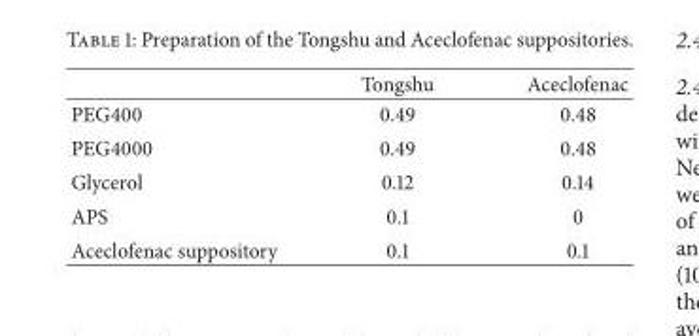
<table><thead><tr><td></td><td>Tongshu</td><td>Aceclofenac</td></tr></thead><tbody><tr><td>PEG400</td><td>0.49</td><td>0.48</td></tr><tr><td>PEG4000</td><td>0.49</td><td>0.48</td></tr><tr><td>Glycerol</td><td>0.12</td><td>0.14</td></tr><tr><td>APS</td><td>0.1</td><td>0</td></tr><tr><td>Aceclofenac suppository</td><td>0.1</td><td>0.1</td></tr></tbody></table>